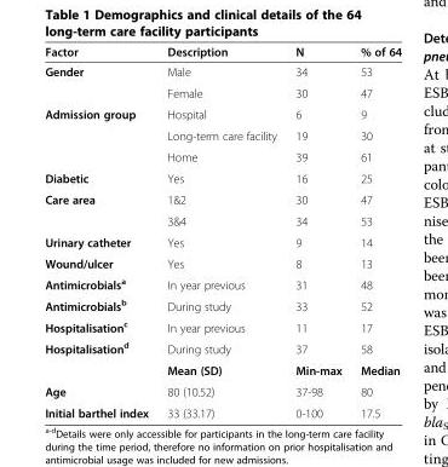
<table><thead><tr><td>Factor</td><td>Description</td><td>N</td><td>% of 64</td></tr></thead><tbody><tr><td rowspan="2">Gender</td><td>Male</td><td>34</td><td>53</td></tr><tr><td>Female</td><td>30</td><td>47</td></tr><tr><td rowspan="3">Admission group</td><td>Hospital</td><td>6</td><td>9</td></tr><tr><td>Long-term care facility</td><td>19</td><td>30</td></tr><tr><td>Home</td><td>39</td><td>61</td></tr><tr><td>Diabetic</td><td>Yes</td><td>16</td><td>25</td></tr><tr><td rowspan="2">Care area</td><td>1&amp;2</td><td>30</td><td>47</td></tr><tr><td>3&amp;4</td><td>34</td><td>53</td></tr><tr><td>Urinary catheter</td><td>Yes</td><td>9</td><td>14</td></tr><tr><td>Wound/ulcer</td><td>Yes</td><td>8</td><td>13</td></tr><tr><td>Antimicrobials<sup>a</sup></td><td>In year previous</td><td>31</td><td>48</td></tr><tr><td>Antimicrobials<sup>b</sup></td><td>During study</td><td>33</td><td>52</td></tr><tr><td>Hospitalisation<sup>c</sup></td><td>In year previous</td><td>11</td><td>17</td></tr><tr><td rowspan="2">Hospitalisation<sup>d</sup></td><td>During study</td><td>37</td><td>58</td></tr><tr><td>Mean (SD)</td><td>Min-max</td><td>Median</td></tr><tr><td>Age</td><td>80 (10.52)</td><td>37-98</td><td>80</td></tr><tr><td>Initial barthel index</td><td>33 (33.17)</td><td>0-100</td><td>17.5</td></tr></tbody></table>